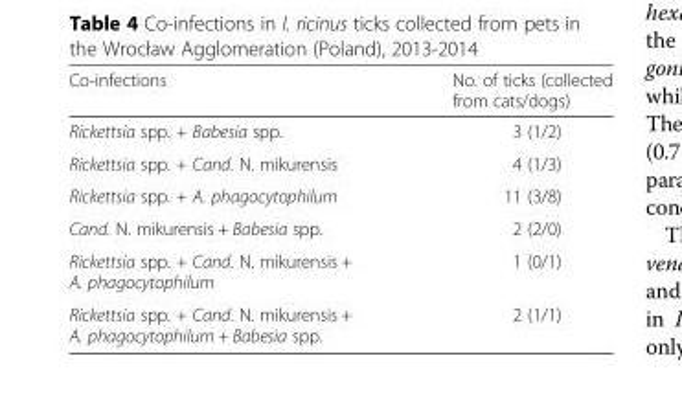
<table><thead><tr><td>Co-infections</td><td>No. of ticks (collected from cats/dogs)</td></tr></thead><tbody><tr><td>Rickettsia spp. + Babesia spp.</td><td>3 (1/2)</td></tr><tr><td>Rickettsia spp. + Cand. N. mikurensis</td><td>4 (1/3)</td></tr><tr><td>Rickettsia spp. + A. phagocytophilum</td><td>11 (3/8)</td></tr><tr><td>Cand. N. mikurensis + Babesia spp.</td><td>2 (2/0)</td></tr><tr><td>Rickettsia spp. + Cand. N. mikurensis + A. phagocytophilum</td><td>1 (0/1)</td></tr><tr><td>Rickettsia spp. + Cand. N. mikurensis + A. phagocytophilum + Babesia spp.</td><td>2 (1/1)</td></tr></tbody></table>